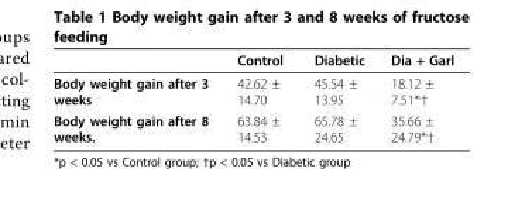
<table><thead><tr><td></td><td>Control</td><td>Diabetic</td><td>Dia + Garl</td></tr></thead><tbody><tr><td>Body weight gain after 3 weeks</td><td>42.62 ± 14.70</td><td>45.54 ± 13.95</td><td>18.12 ± 7.51*<sup>,</sup>†</td></tr><tr><td>Body weight gain after 8 weeks.</td><td>63.84 ± 14.53</td><td>65.78 ± 24.65</td><td>35.66 ± 24.79*<sup>,</sup>†</td></tr></tbody></table>